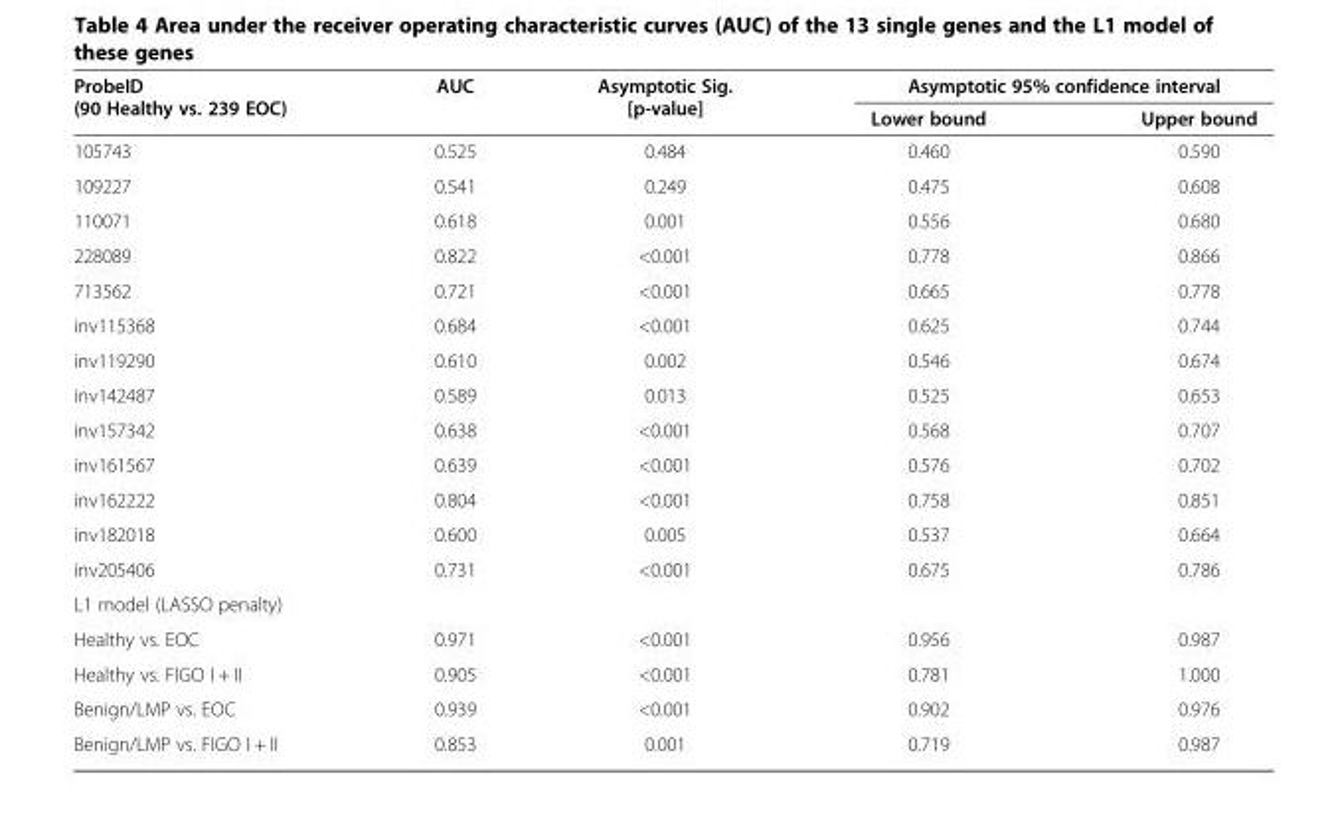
<table><thead><tr><td rowspan="2">ProbeID (90 Healthy vs. 239 EOC)</td><td rowspan="2">AUC</td><td rowspan="2">Asymptotic Sig. [p-value]</td><td colspan="2">Asymptotic 95% confidence interval</td></tr><tr><td>Lower bound</td><td>Upper bound</td></tr></thead><tbody><tr><td>105743</td><td>0.525</td><td>0.484</td><td>0.460</td><td>0.590</td></tr><tr><td>109227</td><td>0.541</td><td>0.249</td><td>0.475</td><td>0.608</td></tr><tr><td>110071</td><td>0.618</td><td>0.001</td><td>0.556</td><td>0.680</td></tr><tr><td>228089</td><td>0.822</td><td>&lt;0.001</td><td>0.778</td><td>0.866</td></tr><tr><td>713562</td><td>0.721</td><td>&lt;0.001</td><td>0.665</td><td>0.778</td></tr><tr><td>inv115368</td><td>0.684</td><td>&lt;0.001</td><td>0.625</td><td>0.744</td></tr><tr><td>inv119290</td><td>0.610</td><td>0.002</td><td>0.546</td><td>0.674</td></tr><tr><td>inv142487</td><td>0.589</td><td>0.013</td><td>0.525</td><td>0.653</td></tr><tr><td>inv157342</td><td>0.638</td><td>&lt;0.001</td><td>0.568</td><td>0.707</td></tr><tr><td>inv161567</td><td>0.639</td><td>&lt;0.001</td><td>0.576</td><td>0.702</td></tr><tr><td>inv162222</td><td>0.804</td><td>&lt;0.001</td><td>0.758</td><td>0.851</td></tr><tr><td>inv182018</td><td>0.600</td><td>0.005</td><td>0.537</td><td>0.664</td></tr><tr><td>inv205406</td><td>0.731</td><td>&lt;0.001</td><td>0.675</td><td>0.786</td></tr><tr><td colspan="5">L1 model (LASSO penalty)</td></tr><tr><td>Healthy vs. EOC</td><td>0.971</td><td>&lt;0.001</td><td>0.956</td><td>0.987</td></tr><tr><td>Healthy vs. FIGO I + II</td><td>0.905</td><td>&lt;0.001</td><td>0.781</td><td>1.000</td></tr><tr><td>Benign/LMP vs. EOC</td><td>0.939</td><td>&lt;0.001</td><td>0.902</td><td>0.976</td></tr><tr><td>Benign/LMP vs. FIGO I + II</td><td>0.853</td><td>0.001</td><td>0.719</td><td>0.987</td></tr></tbody></table>